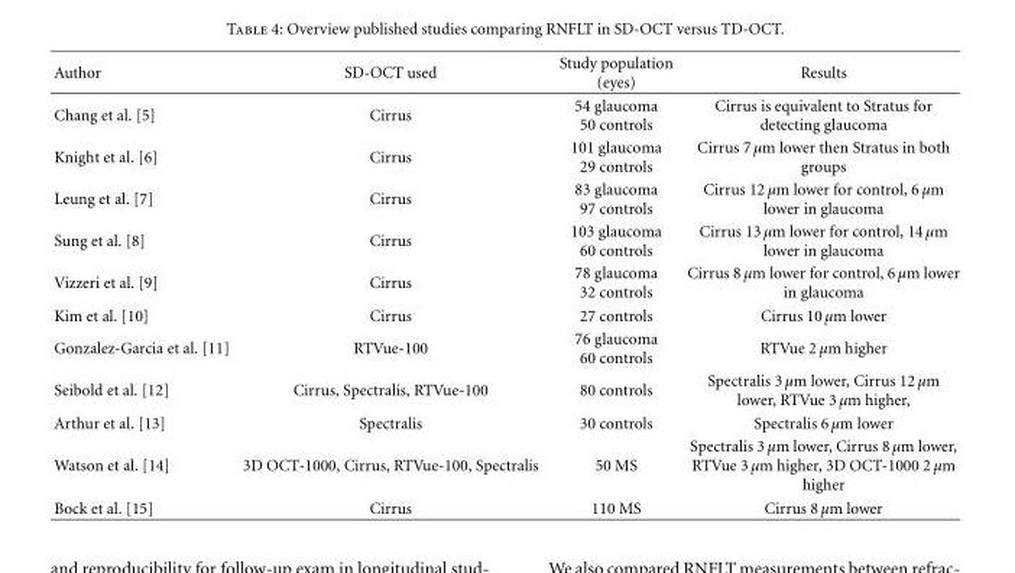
<table><thead><tr><td>Author</td><td>SD-OCT used</td><td>Study population (eyes)</td><td>Results</td></tr></thead><tbody><tr><td>Chang et al. [5]</td><td>Cirrus</td><td>54 glaucoma 50 controls</td><td>Cirrus is equivalent to Stratus for detecting glaucoma</td></tr><tr><td>Knight et al. [6]</td><td>Cirrus</td><td>101 glaucoma 29 controls</td><td>Cirrus 7 µm lower then Stratus in both groups</td></tr><tr><td>Leung et al. [7]</td><td>Cirrus</td><td>83 glaucoma 97 controls</td><td>Cirrus 12 µm lower for control, 6 µm lower in glaucoma</td></tr><tr><td>Sung et al. [8]</td><td>Cirrus</td><td>103 glaucoma 60 controls</td><td>Cirrus 13 µm lower for control, 14 µm lower in glaucoma</td></tr><tr><td>Vizzeri et al. [9]</td><td>Cirrus</td><td>78 glaucoma 32 controls</td><td>Cirrus 8 µm lower for control, 6 µm lower in glaucoma</td></tr><tr><td>Kim et al. [10]</td><td>Cirrus</td><td>27 controls</td><td>Cirrus 10 µm lower</td></tr><tr><td>Gonzalez-Garcia et al. [11]</td><td>RTVue-100</td><td>76 glaucoma 60 controls</td><td>RTVue 2 µm higher</td></tr><tr><td>Seibold et al. [12]</td><td>Cirrus, Spectralis, RTVue-100</td><td>80 controls</td><td>Spectralis 3 µm lower, Cirrus 12 µm lower, RTVue 3 µm higher,</td></tr><tr><td>Arthur et al. [13]</td><td>Spectralis</td><td>30 controls</td><td>Spectralis 6 µm lower</td></tr><tr><td>Watson et al. [14]</td><td>3D OCT-1000, Cirrus, RTVue-100, Spectralis</td><td>50 MS</td><td>Spectralis 3 µm lower, Cirrus 8 µm lower, RTVue 3 µm higher, 3D OCT-1000 2 µm higher</td></tr><tr><td>Bock et al. [15]</td><td>Cirrus</td><td>110 MS</td><td>Cirrus 8 µm lower</td></tr></tbody></table>